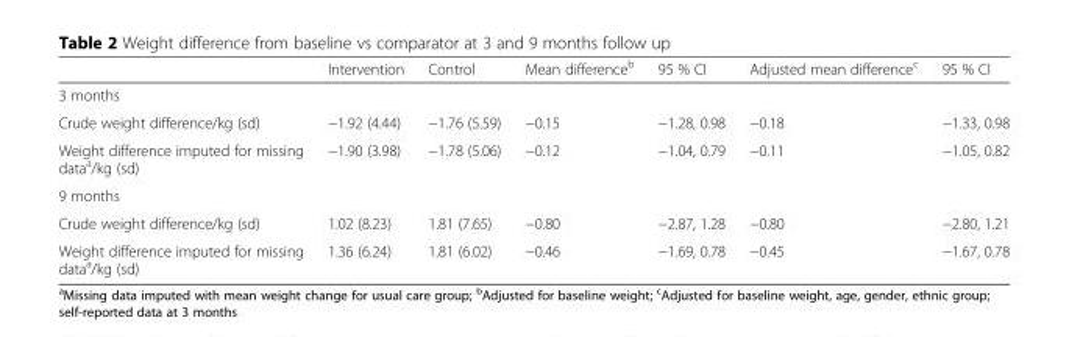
<table><thead><tr><td></td><td>Intervention</td><td>Control</td><td>Mean difference<sup>b</sup></td><td>95 % CI</td><td>Adjusted mean difference<sup>c</sup></td><td>95 % CI</td></tr></thead><tbody><tr><td colspan="7">3 months</td></tr><tr><td>Crude weight difference/kg (sd)</td><td>−1.92 (4.44)</td><td>−1.76 (5.59)</td><td>−0.15</td><td>−1.28, 0.98</td><td>−0.18</td><td>−1.33, 0.98</td></tr><tr><td>Weight difference imputed for missing data<sup>a</sup>/kg (sd)</td><td>−1.90 (3.98)</td><td>−1.78 (5.06)</td><td>−0.12</td><td>−1.04, 0.79</td><td>−0.11</td><td>−1.05, 0.82</td></tr><tr><td colspan="7">9 months</td></tr><tr><td>Crude weight difference/kg (sd)</td><td>1.02 (8.23)</td><td>1.81 (7.65)</td><td>−0.80</td><td>−2.87, 1.28</td><td>−0.80</td><td>−2.80, 1.21</td></tr><tr><td>Weight difference imputed for missing data<sup>a</sup>/kg (sd)</td><td>1.36 (6.24)</td><td>1.81 (6.02)</td><td>−0.46</td><td>−1.69, 0.78</td><td>−0.45</td><td>−1.67, 0.78</td></tr></tbody></table>